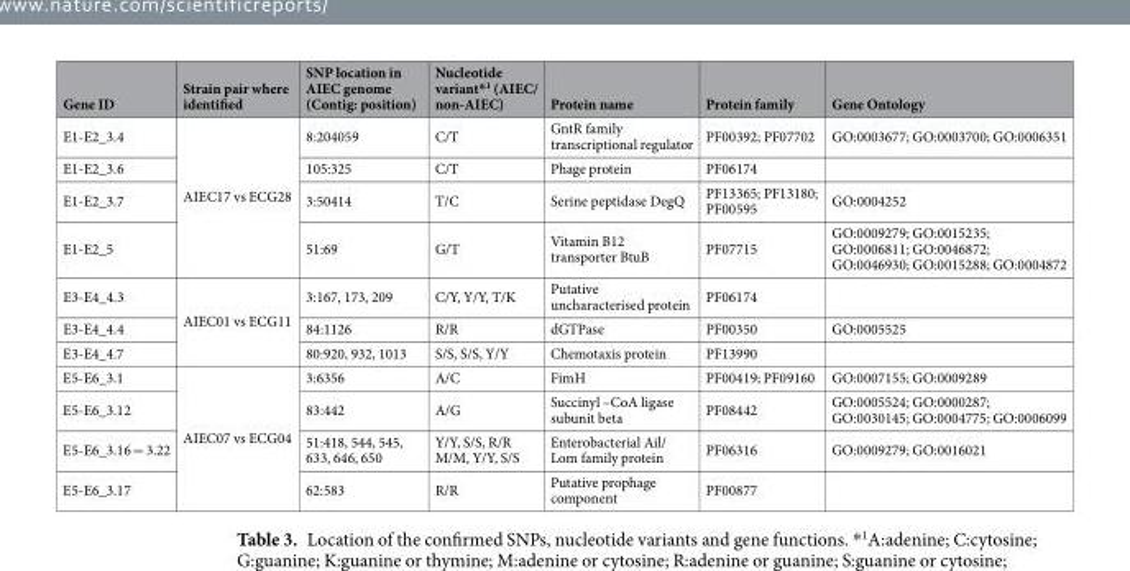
<table><thead><tr><td>Gene ID</td><td>Strain pair where identified</td><td>SNP location in AIEC genome (Contig: position)</td><td>Nucleotide variant*<sup>1</sup> (AIEC/ non-AIEC)</td><td>Protein name</td><td>Protein family</td><td>Gene Ontology</td></tr></thead><tbody><tr><td>E1-E2_3.4</td><td rowspan="4">AIEC17 vs ECG28</td><td>8:204059</td><td>C/T</td><td>GntR family transcriptional regulator</td><td>PF00392; PF07702</td><td>GO:0003677; GO:0003700; GO:0006351</td></tr><tr><td>E1-E2_3.6</td><td>105:325</td><td>C/T</td><td>Phage protein</td><td>PF06174</td><td></td></tr><tr><td>E1-E2_3.7</td><td>3:50414</td><td>T/C</td><td>Serine peptidase DegQ</td><td>PF13365; PF13180; PF00595</td><td>GO:0004252</td></tr><tr><td>E1-E2_5</td><td>51:69</td><td>G/T</td><td>Vitamin B12 transporter BtuB</td><td>PF07715</td><td>GO:0009279; GO:0015235; GO:0006811; GO:0046872; GO:0046930; GO:0015288; GO:0004872</td></tr><tr><td>E3-E4_4.3</td><td rowspan="3">AIEC01 vs ECG11</td><td>3:167, 173, 209</td><td>C/Y, Y/Y, T/K</td><td>Putative uncharacterised protein</td><td>PF06174</td><td></td></tr><tr><td>E3-E4_4.4</td><td>84:1126</td><td>R/R</td><td>dGTPase</td><td>PF00350</td><td>GO:0005525</td></tr><tr><td>E3-E4_4.7</td><td>80:920, 932, 1013</td><td>S/S, S/S, Y/Y</td><td>Chemotaxis protein</td><td>PF13990</td><td></td></tr><tr><td>E5-E6_3.1</td><td rowspan="4">AIEC07 vs ECG04</td><td>3:6356</td><td>A/C</td><td>FimH</td><td>PF00419; PF09160</td><td>GO:0007155; GO:0009289</td></tr><tr><td>E5-E6_3.12</td><td>83:442</td><td>A/G</td><td>Succinyl –CoA ligase subunit beta</td><td>PF08442</td><td>GO:0005524; GO:0000287; GO:0030145; GO:0004775; GO:0006099</td></tr><tr><td>E5-E6_3.16 = 3.22</td><td>51:418, 544, 545, 633, 646, 650</td><td>Y/Y, S/S, R/R M/M, Y/Y, S/S</td><td>Enterobacterial Ail/ Lom family protein</td><td>PF06316</td><td>GO:0009279; GO:0016021</td></tr><tr><td>E5-E6_3.17</td><td>62:583</td><td>R/R</td><td>Putative prophage component</td><td>PF00877</td><td></td></tr></tbody></table>